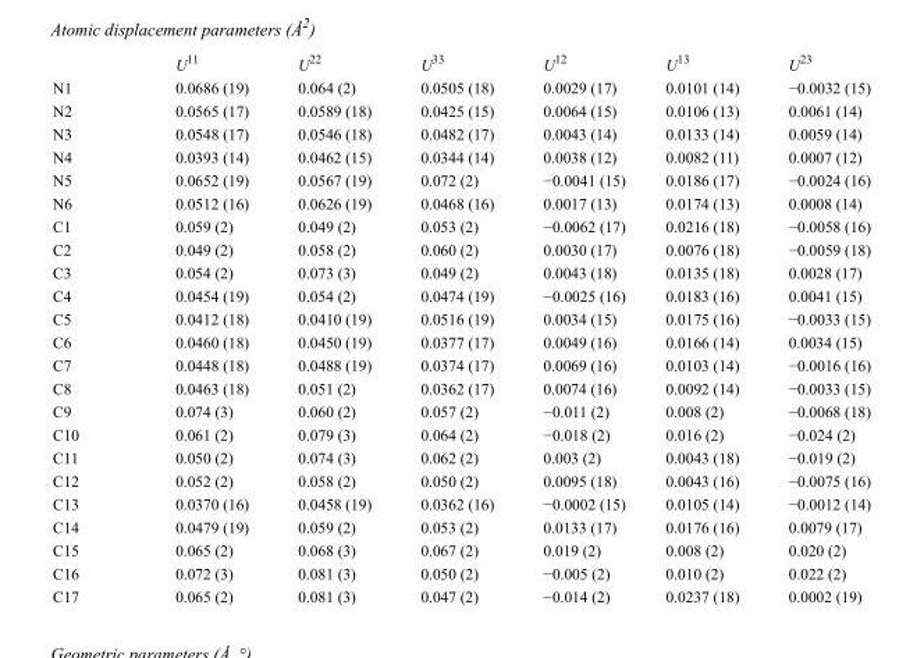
<table><thead><tr><td></td><td>U<sup>11</sup></td><td>U<sup>22</sup></td><td>U<sup>33</sup></td><td>U<sup>12</sup></td><td>U<sup>13</sup></td><td>U<sup>23</sup></td></tr></thead><tbody><tr><td>N1</td><td>0.0686 (19)</td><td>0.064 (2)</td><td>0.0505 (18)</td><td>0.0029 (17)</td><td>0.0101 (14)</td><td>−0.0032 (15)</td></tr><tr><td>N2</td><td>0.0565 (17)</td><td>0.0589 (18)</td><td>0.0425 (15)</td><td>0.0064 (15)</td><td>0.0106 (13)</td><td>0.0061 (14)</td></tr><tr><td>N3</td><td>0.0548 (17)</td><td>0.0546 (18)</td><td>0.0482 (17)</td><td>0.0043 (14)</td><td>0.0133 (14)</td><td>0.0059 (14)</td></tr><tr><td>N4</td><td>0.0393 (14)</td><td>0.0462 (15)</td><td>0.0344 (14)</td><td>0.0038 (12)</td><td>0.0082 (11)</td><td>0.0007 (12)</td></tr><tr><td>N5</td><td>0.0652 (19)</td><td>0.0567 (19)</td><td>0.072 (2)</td><td>−0.0041 (15)</td><td>0.0186 (17)</td><td>−0.0024 (16)</td></tr><tr><td>N6</td><td>0.0512 (16)</td><td>0.0626 (19)</td><td>0.0468 (16)</td><td>0.0017 (13)</td><td>0.0174 (13)</td><td>0.0008 (14)</td></tr><tr><td>C1</td><td>0.059 (2)</td><td>0.049 (2)</td><td>0.053 (2)</td><td>−0.0062 (17)</td><td>0.0216 (18)</td><td>−0.0058 (16)</td></tr><tr><td>C2</td><td>0.049 (2)</td><td>0.058 (2)</td><td>0.060 (2)</td><td>0.0030 (17)</td><td>0.0076 (18)</td><td>−0.0059 (18)</td></tr><tr><td>C3</td><td>0.054 (2)</td><td>0.073 (3)</td><td>0.049 (2)</td><td>0.0043 (18)</td><td>0.0135 (18)</td><td>0.0028 (17)</td></tr><tr><td>C4</td><td>0.0454 (19)</td><td>0.054 (2)</td><td>0.0474 (19)</td><td>−0.0025 (16)</td><td>0.0183 (16)</td><td>0.0041 (15)</td></tr><tr><td>C5</td><td>0.0412 (18)</td><td>0.0410 (19)</td><td>0.0516 (19)</td><td>0.0034 (15)</td><td>0.0175 (16)</td><td>−0.0033 (15)</td></tr><tr><td>C6</td><td>0.0460 (18)</td><td>0.0450 (19)</td><td>0.0377 (17)</td><td>0.0049 (16)</td><td>0.0166 (14)</td><td>0.0034 (15)</td></tr><tr><td>C7</td><td>0.0448 (18)</td><td>0.0488 (19)</td><td>0.0374 (17)</td><td>0.0069 (16)</td><td>0.0103 (14)</td><td>−0.0016 (16)</td></tr><tr><td>C8</td><td>0.0463 (18)</td><td>0.051 (2)</td><td>0.0362 (17)</td><td>0.0074 (16)</td><td>0.0092 (14)</td><td>−0.0033 (15)</td></tr><tr><td>C9</td><td>0.074 (3)</td><td>0.060 (2)</td><td>0.057 (2)</td><td>−0.011 (2)</td><td>0.008 (2)</td><td>−0.0068 (18)</td></tr><tr><td>C10</td><td>0.061 (2)</td><td>0.079 (3)</td><td>0.064 (2)</td><td>−0.018 (2)</td><td>0.016 (2)</td><td>−0.024 (2)</td></tr><tr><td>C11</td><td>0.050 (2)</td><td>0.074 (3)</td><td>0.062 (2)</td><td>0.003 (2)</td><td>0.0043 (18)</td><td>−0.019 (2)</td></tr><tr><td>C12</td><td>0.052 (2)</td><td>0.058 (2)</td><td>0.050 (2)</td><td>0.0095 (18)</td><td>0.0043 (16)</td><td>−0.0075 (16)</td></tr><tr><td>C13</td><td>0.0370 (16)</td><td>0.0458 (19)</td><td>0.0362 (16)</td><td>−0.0002 (15)</td><td>0.0105 (14)</td><td>−0.0012 (14)</td></tr><tr><td>C14</td><td>0.0479 (19)</td><td>0.059 (2)</td><td>0.053 (2)</td><td>0.0133 (17)</td><td>0.0176 (16)</td><td>0.0079 (17)</td></tr><tr><td>C15</td><td>0.065 (2)</td><td>0.068 (3)</td><td>0.067 (2)</td><td>0.019 (2)</td><td>0.008 (2)</td><td>0.020 (2)</td></tr><tr><td>C16</td><td>0.072 (3)</td><td>0.081 (3)</td><td>0.050 (2)</td><td>−0.005 (2)</td><td>0.010 (2)</td><td>0.022 (2)</td></tr><tr><td>C17</td><td>0.065 (2)</td><td>0.081 (3)</td><td>0.047 (2)</td><td>−0.014 (2)</td><td>0.0237 (18)</td><td>0.0002 (19)</td></tr></tbody></table>